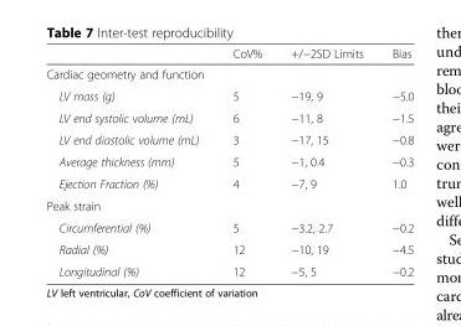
<table><thead><tr><td></td><td>CoV%</td><td>+/−2SD Limits</td><td>Bias</td></tr></thead><tbody><tr><td colspan="4">Cardiac geometry and function</td></tr><tr><td>LV mass (g)</td><td>5</td><td>−19, 9</td><td>−5.0</td></tr><tr><td>LV end systolic volume (mL)</td><td>6</td><td>−11, 8</td><td>−1.5</td></tr><tr><td>LV end diastolic volume (mL)</td><td>3</td><td>−17, 15</td><td>−0.8</td></tr><tr><td>Average thickness (mm)</td><td>5</td><td>−1, 0.4</td><td>−0.3</td></tr><tr><td>Ejection Fraction (%)</td><td>4</td><td>−7, 9</td><td>1.0</td></tr><tr><td colspan="4">Peak strain</td></tr><tr><td>Circumferential (%)</td><td>5</td><td>−3.2, 2.7</td><td>−0.2</td></tr><tr><td>Radial (%)</td><td>12</td><td>−10, 19</td><td>−4.5</td></tr><tr><td>Longitudinal (%)</td><td>12</td><td>−5, 5</td><td>−0.2</td></tr></tbody></table>